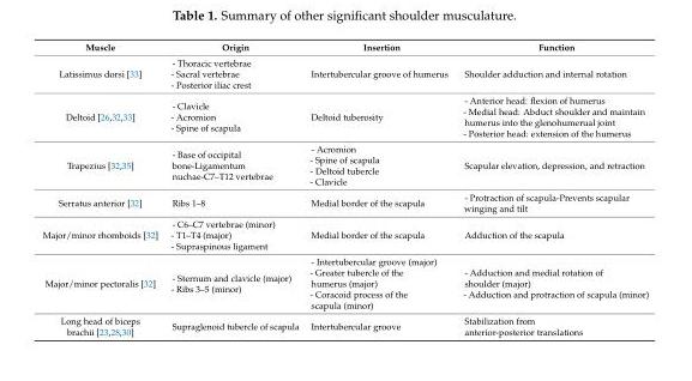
<table><thead><tr><td>Muscle</td><td>Origin</td><td>Insertion</td><td>Function</td></tr></thead><tbody><tr><td>Latissimus dorsi [33]</td><td>- Thoracic vertebrae - Sacral vertebrae - Posterior iliac crest</td><td>Intertubercular groove of humerus</td><td>Shoulder adduction and internal rotation</td></tr><tr><td>Deltoid [26,32,33]</td><td>- Clavicle - Acromion - Spine of scapula</td><td>Deltoid tuberosity</td><td>- Anterior head: flexion of humerus - Medial head: Abduct shoulder and maintain humerus into the glenohumerual joint - Posterior head: extension of the humerus</td></tr><tr><td>Trapezius [32,35]</td><td>- Base of occipital bone-Ligamentum nuchae-C7–T12 vertebrae</td><td>- Acromion - Spine of scapula - Deltoid tubercle - Clavicle</td><td>Scapular elevation, depression, and retraction</td></tr><tr><td>Serratus anterior [32]</td><td>Ribs 1–8</td><td>Medial border of the scapula</td><td>- Protraction of scapula-Prevents scapular winging and tilt</td></tr><tr><td>Major/minor rhomboids [32]</td><td>- C6–C7 vertebrae (minor) - T1–T4 (major) - Supraspinous ligament</td><td>Medial border of the scapula</td><td>Adduction of the scapula</td></tr><tr><td>Major/minor pectoralis [32]</td><td>- Sternum and clavicle (major) - Ribs 3–5 (minor)</td><td>- Intertubercular groove (major) - Greater tubercle of the humerus (major) - Coracoid process of the scapula (minor)</td><td>- Adduction and medial rotation of shoulder (major) - Adduction and protraction of scapula (minor)</td></tr><tr><td>Long head of biceps brachii [23,28,30]</td><td>Supraglenoid tubercle of scapula</td><td>Intertubercular groove</td><td>Stabilization from anterior-posterior translations</td></tr></tbody></table>